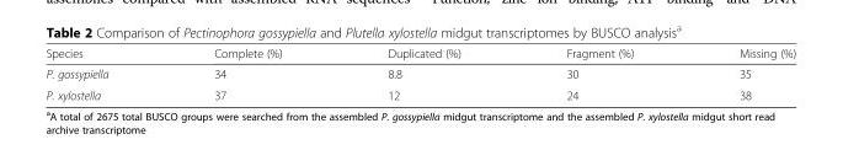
<table><thead><tr><td>Species</td><td>Complete (%)</td><td>Duplicated (%)</td><td>Fragment (%)</td><td>Missing (%)</td></tr></thead><tbody><tr><td>P. gossypiella</td><td>34</td><td>8.8</td><td>30</td><td>35</td></tr><tr><td>P. xylostella</td><td>37</td><td>12</td><td>24</td><td>38</td></tr></tbody></table>